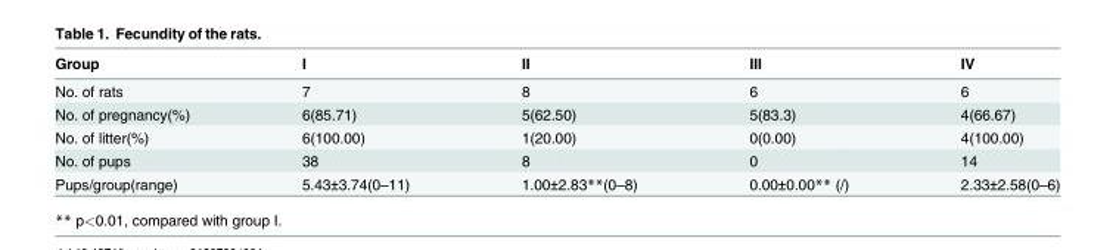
<table><thead><tr><td>Group</td><td>I</td><td>II</td><td>III</td><td>IV</td></tr></thead><tbody><tr><td>No. of rats</td><td>7</td><td>8</td><td>6</td><td>6</td></tr><tr><td>No. of pregnancy(%)</td><td>6(85.71)</td><td>5(62.50)</td><td>5(83.3)</td><td>4(66.67)</td></tr><tr><td>No. of litter(%)</td><td>6(100.00)</td><td>1(20.00)</td><td>0(0.00)</td><td>4(100.00)</td></tr><tr><td>No. of pups</td><td>38</td><td>8</td><td>0</td><td>14</td></tr><tr><td>Pups/group(range)</td><td>5.43±3.74(0–11)</td><td>1.00±2.83**(0–8)</td><td>0.00±0.00** (/)</td><td>2.33±2.58(0–6)</td></tr></tbody></table>